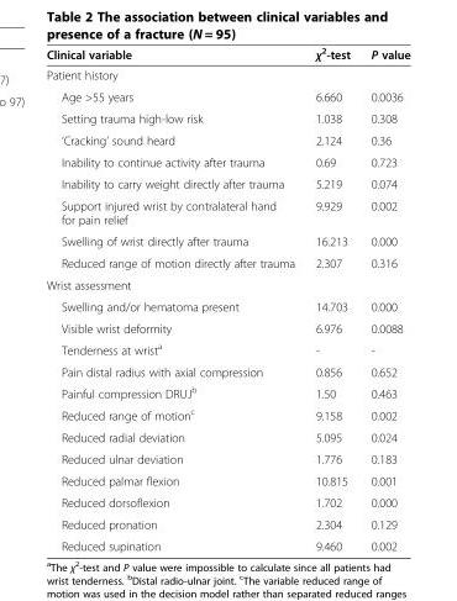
<table><thead><tr><td>Clinical variable</td><td>χ<sup>2</sup>-test</td><td>Ρ value</td></tr></thead><tbody><tr><td colspan="3">Patient history</td></tr><tr><td>Age &gt;55 years</td><td>6.660</td><td>0.0036</td></tr><tr><td>Setting trauma high-low risk</td><td>1.038</td><td>0.308</td></tr><tr><td>‘Cracking’ sound heard</td><td>2.124</td><td>0.36</td></tr><tr><td>Inability to continue activity after trauma</td><td>0.69</td><td>0.723</td></tr><tr><td>Inability to carry weight directly after trauma</td><td>5.219</td><td>0.074</td></tr><tr><td>Support injured wrist by contralateral hand for pain relief</td><td>9.929</td><td>0.002</td></tr><tr><td>Swelling of wrist directly after trauma</td><td>16.213</td><td>0.000</td></tr><tr><td>Reduced range of motion directly after trauma</td><td>2.307</td><td>0.316</td></tr><tr><td colspan="3">Wrist assessment</td></tr><tr><td>Swelling and/or hematoma present</td><td>14.703</td><td>0.000</td></tr><tr><td>Visible wrist deformity</td><td>6.976</td><td>0.0088</td></tr><tr><td>Tenderness at wrist<sup>a</sup></td><td>-</td><td>-</td></tr><tr><td>Pain distal radius with axial compression</td><td>0.856</td><td>0.652</td></tr><tr><td>Painful compression DRUJ<sup>b</sup></td><td>1.50</td><td>0.463</td></tr><tr><td>Reduced range of motion<sup>c</sup></td><td>9.158</td><td>0.002</td></tr><tr><td>Reduced radial deviation</td><td>5.095</td><td>0.024</td></tr><tr><td>Reduced ulnar deviation</td><td>1.776</td><td>0.183</td></tr><tr><td>Reduced palmar flexion</td><td>10.815</td><td>0.001</td></tr><tr><td>Reduced dorsoflexion</td><td>1.702</td><td>0.000</td></tr><tr><td>Reduced pronation</td><td>2.304</td><td>0.129</td></tr><tr><td>Reduced supination</td><td>9.460</td><td>0.002</td></tr></tbody></table>